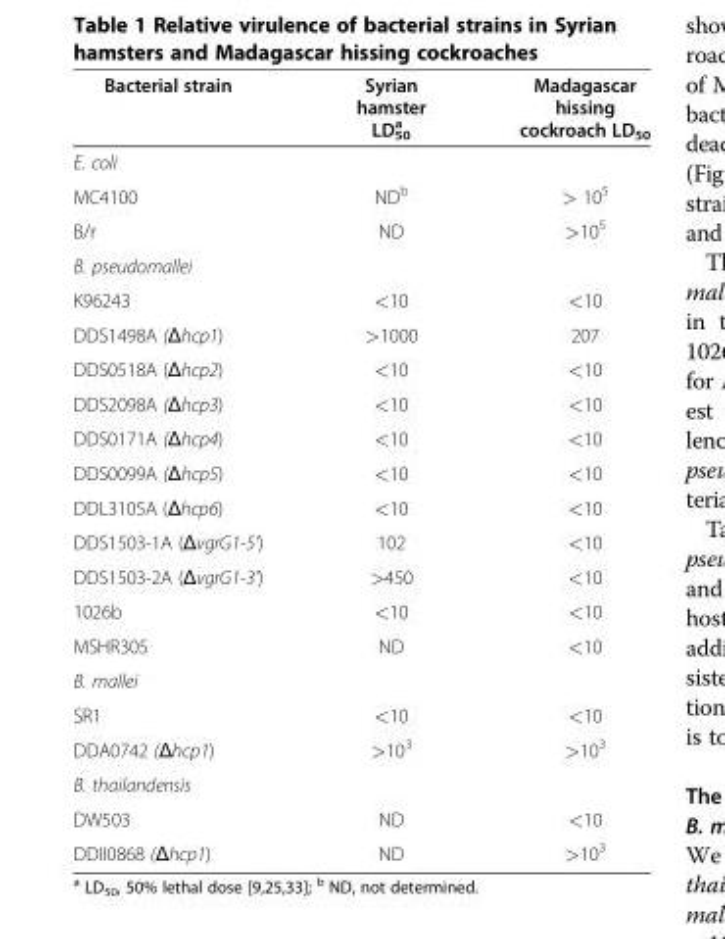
<table><thead><tr><td>Bacterial strain</td><td>Syrian hamster LD<sub>50</sub> <sup>a</sup></td><td>Madagascar hissing cockroach LD<sub>50</sub></td></tr></thead><tbody><tr><td colspan="3">E. coli</td></tr><tr><td>MC4100</td><td>ND<sup>b</sup></td><td>&gt; 10<sup>5</sup></td></tr><tr><td>B/r</td><td>ND</td><td>&gt;10<sup>5</sup></td></tr><tr><td colspan="3">B. pseudomallei</td></tr><tr><td>K96243</td><td>&lt;10</td><td>&lt;10</td></tr><tr><td>DDS1498A (Δhcp1)</td><td>&gt;1000</td><td>207</td></tr><tr><td>DDS0518A (Δhcp2)</td><td>&lt;10</td><td>&lt;10</td></tr><tr><td>DDS2098A (Δhcp3)</td><td>&lt;10</td><td>&lt;10</td></tr><tr><td>DDS0171A (Δhcp4)</td><td>&lt;10</td><td>&lt;10</td></tr><tr><td>DDS0099A (Δhcp5)</td><td>&lt;10</td><td>&lt;10</td></tr><tr><td>DDL3105A (Δhcp6)</td><td>&lt;10</td><td>&lt;10</td></tr><tr><td>DDS1503-1A (ΔvgrG1-5’)</td><td>102</td><td>&lt;10</td></tr><tr><td>DDS1503-2A (ΔvgrG1-3’)</td><td>&gt;450</td><td>&lt;10</td></tr><tr><td>1026b</td><td>&lt;10</td><td>&lt;10</td></tr><tr><td>MSHR305</td><td>ND</td><td>&lt;10</td></tr><tr><td colspan="3">B. mallei</td></tr><tr><td>SR1</td><td>&lt;10</td><td>&lt;10</td></tr><tr><td>DDA0742 (Δhcp1)</td><td>&gt;10<sup>3</sup></td><td>&gt;10<sup>3</sup></td></tr><tr><td colspan="3">B. thailandensis</td></tr><tr><td>DW503</td><td>ND</td><td>&lt;10</td></tr><tr><td>DDII0868 (Δhcp1)</td><td>ND</td><td>&gt;10<sup>3</sup></td></tr></tbody></table>